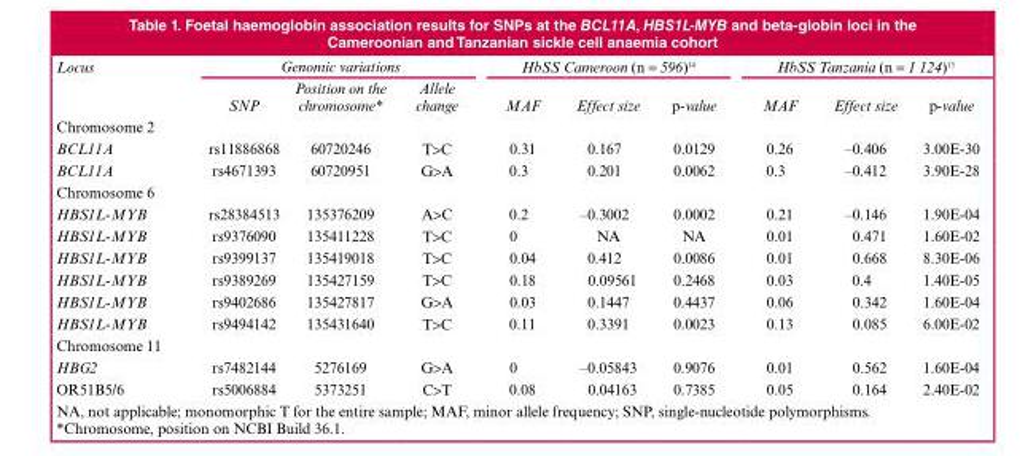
<table><thead><tr><td rowspan="2">Locus</td><td colspan="3">Genomic variations</td><td colspan="3">HbSS Cameroon (n = 596)14</td><td colspan="3">HbSS Tanzania (n = 1 124)13</td></tr><tr><td>SNP</td><td>Position on the chromosome*</td><td>Allele change</td><td>MAF</td><td>Effect size</td><td>p-value</td><td>MAF</td><td>Effect size</td><td>p-value</td></tr></thead><tbody><tr><td colspan="10">Chromosome 2</td></tr><tr><td>BCL11A</td><td>rs11886868</td><td>60720246</td><td>T&gt;C</td><td>0.31</td><td>0.167</td><td>0.0129</td><td>0.26</td><td>–0.406</td><td>3.00E-30</td></tr><tr><td>BCL11A</td><td>rs4671393</td><td>60720951</td><td>G&gt;A</td><td>0.3</td><td>0.201</td><td>0.0062</td><td>0.3</td><td>–0.412</td><td>3.90E-28</td></tr><tr><td colspan="10">Chromosome 6</td></tr><tr><td>HBS1L-MYB</td><td>rs28384513</td><td>135376209</td><td>A&gt;C</td><td>0.2</td><td>–0.3002</td><td>0.0002</td><td>0.21</td><td>–0.146</td><td>1.90E-04</td></tr><tr><td>HBS1L-MYB</td><td>rs9376090</td><td>135411228</td><td>T&gt;C</td><td>0</td><td>NA</td><td>NA</td><td>0.01</td><td>0.471</td><td>1.60E-02</td></tr><tr><td>HBS1L-MYB</td><td>rs9399137</td><td>135419018</td><td>T&gt;C</td><td>0.04</td><td>0.412</td><td>0.0086</td><td>0.01</td><td>0.668</td><td>8.30E-06</td></tr><tr><td>HBS1L-MYB</td><td>rs9389269</td><td>135427159</td><td>T&gt;C</td><td>0.18</td><td>0.09561</td><td>0.2468</td><td>0.03</td><td>0.4</td><td>1.40E-05</td></tr><tr><td>HBS1L-MYB</td><td>rs9402686</td><td>135427817</td><td>G&gt;A</td><td>0.03</td><td>0.1447</td><td>0.4437</td><td>0.06</td><td>0.342</td><td>1.60E-04</td></tr><tr><td>HBS1L-MYB</td><td>rs9494142</td><td>135431640</td><td>T&gt;C</td><td>0.11</td><td>0.3391</td><td>0.0023</td><td>0.13</td><td>0.085</td><td>6.00E-02</td></tr><tr><td colspan="10">Chromosome 11</td></tr><tr><td>HBG2</td><td>rs7482144</td><td>5276169</td><td>G&gt;A</td><td>0</td><td>–0.05843</td><td>0.9076</td><td>0.01</td><td>0.562</td><td>1.60E-04</td></tr><tr><td>OR51B5/6</td><td>rs5006884</td><td>5373251</td><td>C&gt;T</td><td>0.08</td><td>0.04163</td><td>0.7385</td><td>0.05</td><td>0.164</td><td>2.40E-02</td></tr></tbody></table>